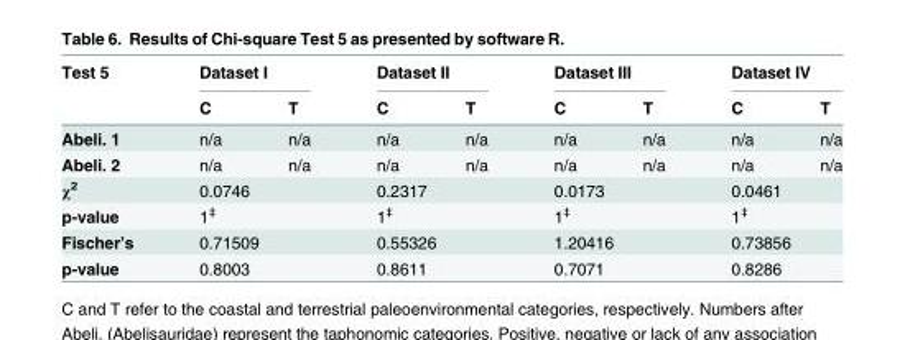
<table><thead><tr><td rowspan="2">Test 5</td><td colspan="2">Dataset I</td><td colspan="2">Dataset II</td><td colspan="2">Dataset III</td><td colspan="2">Dataset IV</td></tr><tr><td>C</td><td>T</td><td>C</td><td>T</td><td>C</td><td>T</td><td>C</td><td>T</td></tr></thead><tbody><tr><td>Abeli. 1</td><td>n/a</td><td>n/a</td><td>n/a</td><td>n/a</td><td>n/a</td><td>n/a</td><td>n/a</td><td>n/a</td></tr><tr><td>Abeli. 2</td><td>n/a</td><td>n/a</td><td>n/a</td><td>n/a</td><td>n/a</td><td>n/a</td><td>n/a</td><td>n/a</td></tr><tr><td>χ<sup>2</sup></td><td colspan="2">0.0746</td><td colspan="2">0.2317</td><td colspan="2">0.0173</td><td colspan="2">0.0461</td></tr><tr><td>p-value</td><td colspan="2">1<sup>‡</sup></td><td colspan="2">1<sup>‡</sup></td><td colspan="2">1<sup>‡</sup></td><td colspan="2">1<sup>‡</sup></td></tr><tr><td>Fischer’s</td><td colspan="2">0.71509</td><td colspan="2">0.55326</td><td colspan="2">1.20416</td><td colspan="2">0.73856</td></tr><tr><td>p-value</td><td colspan="2">0.8003</td><td colspan="2">0.8611</td><td colspan="2">0.7071</td><td colspan="2">0.8286</td></tr></tbody></table>